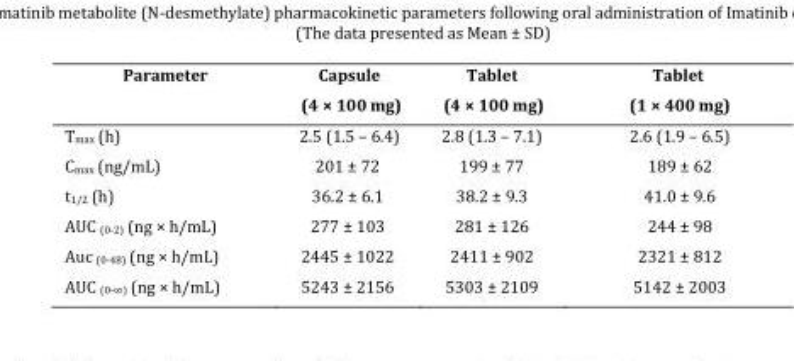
<table><thead><tr><td>Parameter</td><td>Capsule (4 × 100 mg)</td><td>Tablet (4 × 100 mg)</td><td>Tablet (1 × 400 mg)</td></tr></thead><tbody><tr><td>T<sub>max</sub> (h)</td><td>2.5 (1.5 – 6.4)</td><td>2.8 (1.3 – 7.1)</td><td>2.6 (1.9 – 6.5)</td></tr><tr><td>C<sub>max</sub> (ng/mL)</td><td>201 ± 72</td><td>199 ± 77</td><td>189 ± 62</td></tr><tr><td>t<sub>1/2</sub> (h)</td><td>36.2 ± 6.1</td><td>38.2 ± 9.3</td><td>41.0 ± 9.6</td></tr><tr><td>AUC <sub>(0-2)</sub> (ng × h/mL)</td><td>277 ± 103</td><td>281 ± 126</td><td>244 ± 98</td></tr><tr><td>Auc <sub>(0-48)</sub> (ng × h/mL)</td><td>2445 ± 1022</td><td>2411 ± 902</td><td>2321 ± 812</td></tr><tr><td>AUC <sub>(0-∞)</sub> (ng × h/mL)</td><td>5243 ± 2156</td><td>5303 ± 2109</td><td>5142 ± 2003</td></tr></tbody></table>